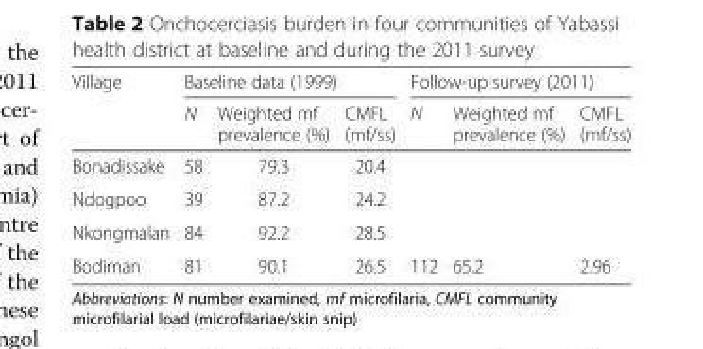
<table><thead><tr><td rowspan="2">Village</td><td colspan="3">Baseline data (1999)</td><td colspan="3">Follow-up survey (2011)</td></tr><tr><td>N</td><td>Weighted mf prevalence (%)</td><td>CMFL (mf/ss)</td><td>N</td><td>Weighted mf prevalence (%)</td><td>CMFL (mf/ss)</td></tr></thead><tbody><tr><td>Bonadissake</td><td>58</td><td>79.3</td><td>20.4</td><td></td><td></td><td></td></tr><tr><td>Ndogpoo</td><td>39</td><td>87.2</td><td>24.2</td><td></td><td></td><td></td></tr><tr><td>Nkongmalan</td><td>84</td><td>92.2</td><td>28.5</td><td></td><td></td><td></td></tr><tr><td>Bodiman</td><td>81</td><td>90.1</td><td>26.5</td><td>112</td><td>65.2</td><td>2.96</td></tr></tbody></table>